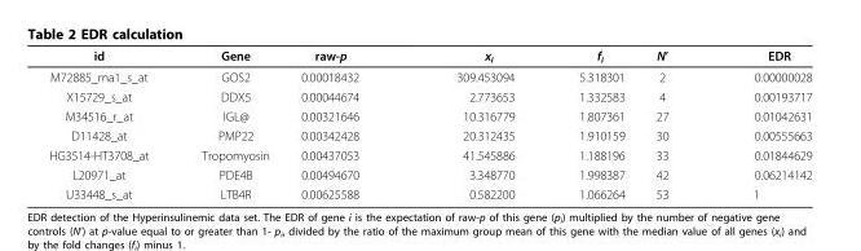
<table><thead><tr><td>id</td><td>Gene</td><td>raw-p</td><td>x<sub>i</sub></td><td>f<sub>i</sub></td><td>N’</td><td>EDR</td></tr></thead><tbody><tr><td>M72885_rna1_s_at</td><td>GOS2</td><td>0.00018432</td><td>309.453094</td><td>5.318301</td><td>2</td><td>0.00000028</td></tr><tr><td>X15729_s_at</td><td>DDX5</td><td>0.00044674</td><td>2.773653</td><td>1.332583</td><td>4</td><td>0.00193717</td></tr><tr><td>M34516_r_at</td><td>IGL@</td><td>0.00321646</td><td>10.316779</td><td>1.807361</td><td>27</td><td>0.01042631</td></tr><tr><td>D11428_at</td><td>PMP22</td><td>0.00342428</td><td>20.312435</td><td>1.910159</td><td>30</td><td>0.00555663</td></tr><tr><td>HG3514-HT3708_at</td><td>Tropomyosin</td><td>0.00437053</td><td>41.545886</td><td>1.188196</td><td>33</td><td>0.01844629</td></tr><tr><td>L20971_at</td><td>PDE4B</td><td>0.00494670</td><td>3.348770</td><td>1.998387</td><td>42</td><td>0.06214142</td></tr><tr><td>U33448_s_at</td><td>LTB4R</td><td>0.00625588</td><td>0.582200</td><td>1.066264</td><td>53</td><td>1</td></tr></tbody></table>